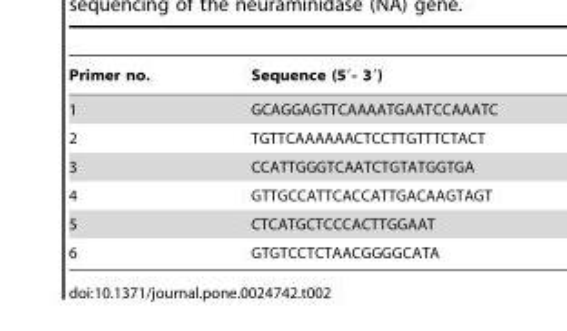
<table><thead><tr><td>Primer no.</td><td>Sequence (5′- 3′)</td></tr></thead><tbody><tr><td>1</td><td>GCAGGAGTTCAAAATGAATCCAAATC</td></tr><tr><td>2</td><td>TGTTCAAAAAACTCCTTGTTTCTACT</td></tr><tr><td>3</td><td>CCATTGGGTCAATCTGTATGGTGA</td></tr><tr><td>4</td><td>GTTGCCATTCACCATTGACAAGTAGT</td></tr><tr><td>5</td><td>CTCATGCTCCCACTTGGAAT</td></tr><tr><td>6</td><td>GTGTCCTCTAACGGGGCATA</td></tr></tbody></table>